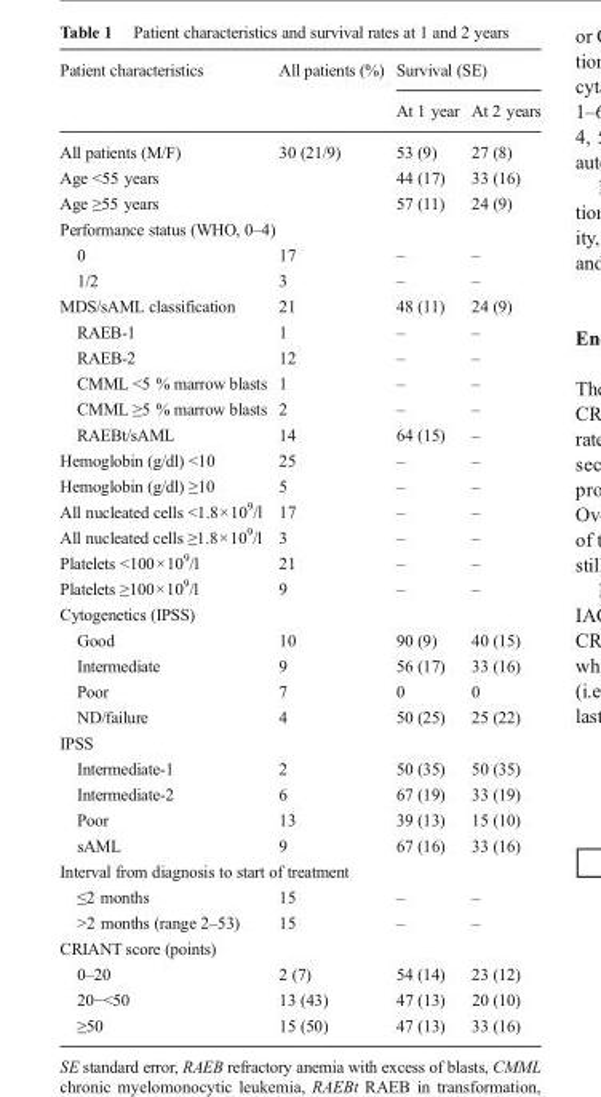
<table><thead><tr><td rowspan="2">Patient characteristics</td><td rowspan="2">All patients (%)</td><td colspan="2">Survival (SE)</td></tr><tr><td>At 1 year</td><td>At 2 years</td></tr></thead><tbody><tr><td>All patients (M/F)</td><td>30 (21/9)</td><td>53 (9)</td><td>27 (8)</td></tr><tr><td>Age &lt;55 years</td><td></td><td>44 (17)</td><td>33 (16)</td></tr><tr><td>Age ≥55 years</td><td></td><td>57 (11)</td><td>24 (9)</td></tr><tr><td colspan="4">Performance status (WHO, 0–4)</td></tr><tr><td>0</td><td>17</td><td>–</td><td>–</td></tr><tr><td>1/2</td><td>3</td><td>–</td><td>–</td></tr><tr><td>MDS/sAML classification</td><td>21</td><td>48 (11)</td><td>24 (9)</td></tr><tr><td>RAEB-1</td><td>1</td><td>–</td><td>–</td></tr><tr><td>RAEB-2</td><td>12</td><td>–</td><td>–</td></tr><tr><td>CMML &lt;5 % marrow blasts</td><td>1</td><td>–</td><td>–</td></tr><tr><td>CMML ≥5 % marrow blasts</td><td>2</td><td>–</td><td>–</td></tr><tr><td>RAEBt/sAML</td><td>14</td><td>64 (15)</td><td>–</td></tr><tr><td>Hemoglobin (g/dl) &lt;10</td><td>25</td><td>–</td><td>–</td></tr><tr><td>Hemoglobin (g/dl) ≥10</td><td>5</td><td>–</td><td>–</td></tr><tr><td>All nucleated cells &lt;1.8×10<sup>9</sup>/l</td><td>17</td><td>–</td><td>–</td></tr><tr><td>All nucleated cells ≥1.8×10<sup>9</sup>/l</td><td>3</td><td>–</td><td>–</td></tr><tr><td>Platelets &lt;100×10<sup>9</sup>/l</td><td>21</td><td>–</td><td>–</td></tr><tr><td>Platelets ≥100×10<sup>9</sup>/l</td><td>9</td><td>–</td><td>–</td></tr><tr><td colspan="4">Cytogenetics (IPSS)</td></tr><tr><td>Good</td><td>10</td><td>90 (9)</td><td>40 (15)</td></tr><tr><td>Intermediate</td><td>9</td><td>56 (17)</td><td>33 (16)</td></tr><tr><td>Poor</td><td>7</td><td>0</td><td>0</td></tr><tr><td>ND/failure</td><td>4</td><td>50 (25)</td><td>25 (22)</td></tr><tr><td colspan="4">IPSS</td></tr><tr><td>Intermediate-1</td><td>2</td><td>50 (35)</td><td>50 (35)</td></tr><tr><td>Intermediate-2</td><td>6</td><td>67 (19)</td><td>33 (19)</td></tr><tr><td>Poor</td><td>13</td><td>39 (13)</td><td>15 (10)</td></tr><tr><td>sAML</td><td>9</td><td>67 (16)</td><td>33 (16)</td></tr><tr><td colspan="4">Interval from diagnosis to start of treatment</td></tr><tr><td>≤2 months</td><td>15</td><td>–</td><td>–</td></tr><tr><td>&gt;2 months (range 2–53)</td><td>15</td><td>–</td><td>–</td></tr><tr><td colspan="4">CRIANT score (points)</td></tr><tr><td>0–20</td><td>2 (7)</td><td>54 (14)</td><td>23 (12)</td></tr><tr><td>20−&lt;50</td><td>13 (43)</td><td>47 (13)</td><td>20 (10)</td></tr><tr><td>≥50</td><td>15 (50)</td><td>47 (13)</td><td>33 (16)</td></tr></tbody></table>